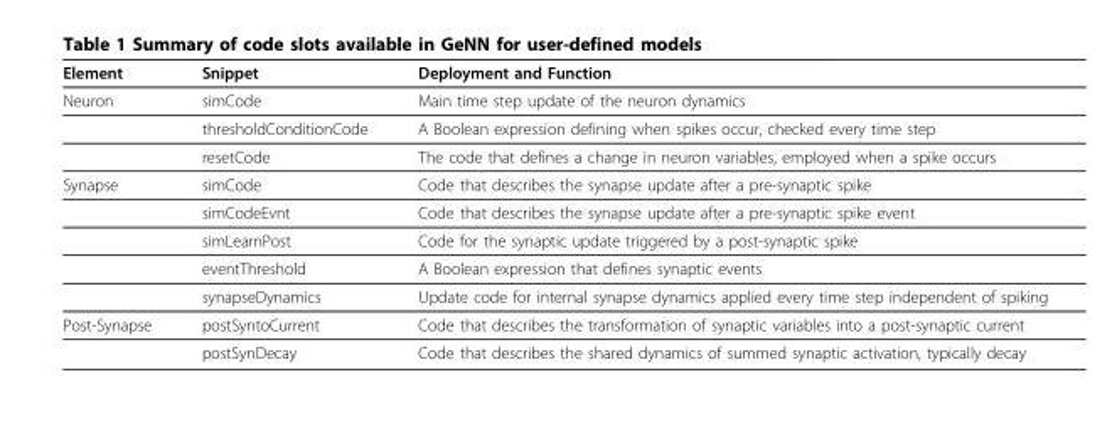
<table><thead><tr><td>Element</td><td>Snippet</td><td>Deployment and Function</td></tr></thead><tbody><tr><td rowspan="3">Neuron</td><td>simCode</td><td>Main time step update of the neuron dynamics</td></tr><tr><td>thresholdConditionCode</td><td>A Boolean expression defining when spikes occur, checked every time step</td></tr><tr><td>resetCode</td><td>The code that defines a change in neuron variables, employed when a spike occurs</td></tr><tr><td rowspan="5">Synapse</td><td>simCode</td><td>Code that describes the synapse update after a pre-synaptic spike</td></tr><tr><td>simCodeEvnt</td><td>Code that describes the synapse update after a pre-synaptic spike event</td></tr><tr><td>simLearnPost</td><td>Code for the synaptic update triggered by a post-synaptic spike</td></tr><tr><td>eventThreshold</td><td>A Boolean expression that defines synaptic events</td></tr><tr><td>synapseDynamics</td><td>Update code for internal synapse dynamics applied every time step independent of spiking</td></tr><tr><td rowspan="2">Post-Synapse</td><td>postSyntoCurrent</td><td>Code that describes the transformation of synaptic variables into a post-synaptic current</td></tr><tr><td>postSynDecay</td><td>Code that describes the shared dynamics of summed synaptic activation, typically decay</td></tr></tbody></table>